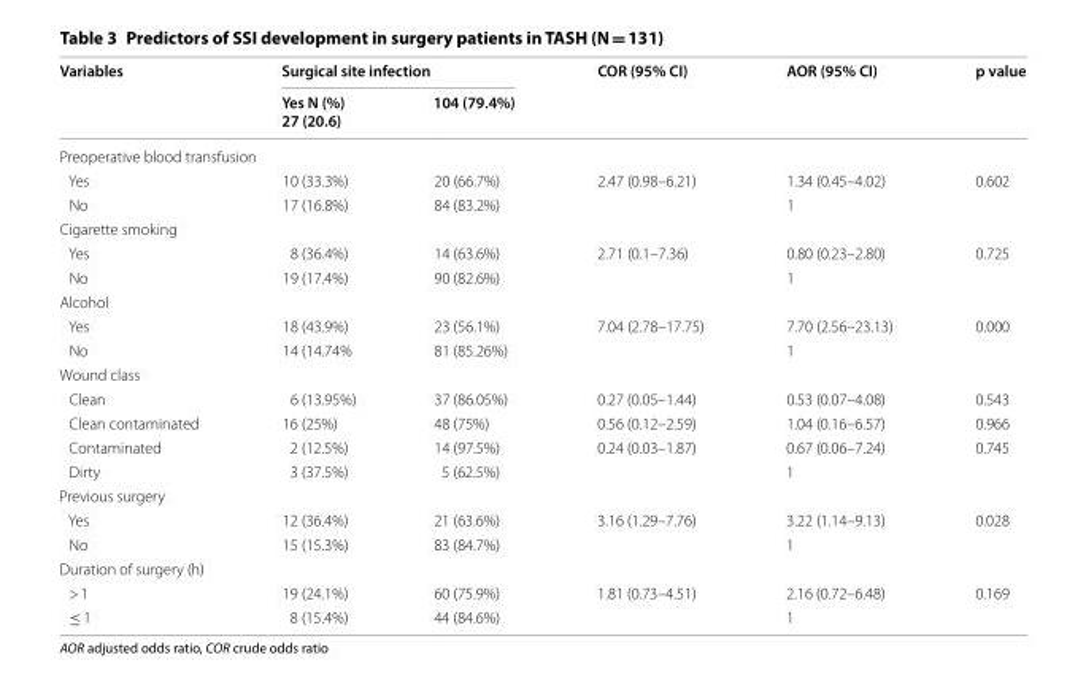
<table><thead><tr><td rowspan="2">Variables</td><td colspan="2">Surgical site infection</td><td rowspan="2">COR (95% CI)</td><td rowspan="2">AOR (95% CI)</td><td rowspan="2">p value</td></tr><tr><td>Yes N (%) 27 (20.6)</td><td>104 (79.4%)</td></tr></thead><tbody><tr><td colspan="6">Preoperative blood transfusion</td></tr><tr><td>Yes</td><td>10 (33.3%)</td><td>20 (66.7%)</td><td>2.47 (0.98–6.21)</td><td>1.34 (0.45–4.02)</td><td>0.602</td></tr><tr><td>No</td><td>17 (16.8%)</td><td>84 (83.2%)</td><td></td><td>1</td><td></td></tr><tr><td colspan="6">Cigarette smoking</td></tr><tr><td>Yes</td><td>8 (36.4%)</td><td>14 (63.6%)</td><td>2.71 (0.1–7.36)</td><td>0.80 (0.23–2.80)</td><td>0.725</td></tr><tr><td>No</td><td>19 (17.4%)</td><td>90 (82.6%)</td><td></td><td>1</td><td></td></tr><tr><td colspan="6">Alcohol</td></tr><tr><td>Yes</td><td>18 (43.9%)</td><td>23 (56.1%)</td><td>7.04 (2.78–17.75)</td><td>7.70 (2.56–23.13)</td><td>0.000</td></tr><tr><td>No</td><td>14 (14.74%</td><td>81 (85.26%)</td><td></td><td>1</td><td></td></tr><tr><td colspan="6">Wound class</td></tr><tr><td>Clean</td><td>6 (13.95%)</td><td>37 (86.05%)</td><td>0.27 (0.05–1.44)</td><td>0.53 (0.07–4.08)</td><td>0.543</td></tr><tr><td>Clean contaminated</td><td>16 (25%)</td><td>48 (75%)</td><td>0.56 (0.12–2.59)</td><td>1.04 (0.16–6.57)</td><td>0.966</td></tr><tr><td>Contaminated</td><td>2 (12.5%)</td><td>14 (97.5%)</td><td>0.24 (0.03–1.87)</td><td>0.67 (0.06–7.24)</td><td>0.745</td></tr><tr><td>Dirty</td><td>3 (37.5%)</td><td>5 (62.5%)</td><td></td><td>1</td><td></td></tr><tr><td colspan="6">Previous surgery</td></tr><tr><td>Yes</td><td>12 (36.4%)</td><td>21 (63.6%)</td><td>3.16 (1.29–7.76)</td><td>3.22 (1.14–9.13)</td><td>0.028</td></tr><tr><td>No</td><td>15 (15.3%)</td><td>83 (84.7%)</td><td></td><td>1</td><td></td></tr><tr><td colspan="6">Duration of surgery (h)</td></tr><tr><td>&gt; 1</td><td>19 (24.1%)</td><td>60 (75.9%)</td><td>1.81 (0.73–4.51)</td><td>2.16 (0.72–6.48)</td><td>0.169</td></tr><tr><td>≤ 1</td><td>8 (15.4%)</td><td>44 (84.6%)</td><td></td><td>1</td><td></td></tr></tbody></table>